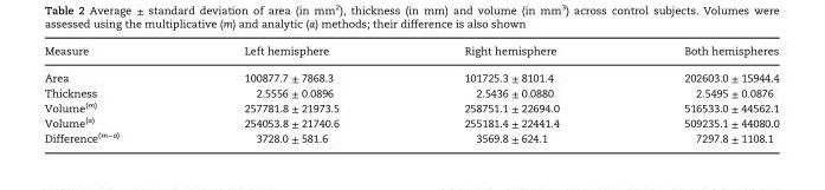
<table><thead><tr><td>Measure</td><td>Left hemisphere</td><td>Right hemisphere</td><td>Both hemispheres</td></tr></thead><tbody><tr><td>Area</td><td>100877.7 ± 7868.3</td><td>101725.3 ± 8101.4</td><td>202603.0 ± 15944.4</td></tr><tr><td>Thickness</td><td>2.5556 ± 0.0896</td><td>2.5436 ± 0.0880</td><td>2.5495 ± 0.0876</td></tr><tr><td>Volume<sup>(m)</sup></td><td>257781.8 ± 21973.5</td><td>258751.1 ± 22694.0</td><td>516533.0 ± 44562.1</td></tr><tr><td>Volume<sup>(a)</sup></td><td>254053.8 ± 21740.6</td><td>255181.4 ± 22441.4</td><td>509235.1 ± 44080.0</td></tr><tr><td>Difference<sup>(m−a)</sup></td><td>3728.0 ± 581.6</td><td>3569.8 ± 624.1</td><td>7297.8 ± 1108.1</td></tr></tbody></table>